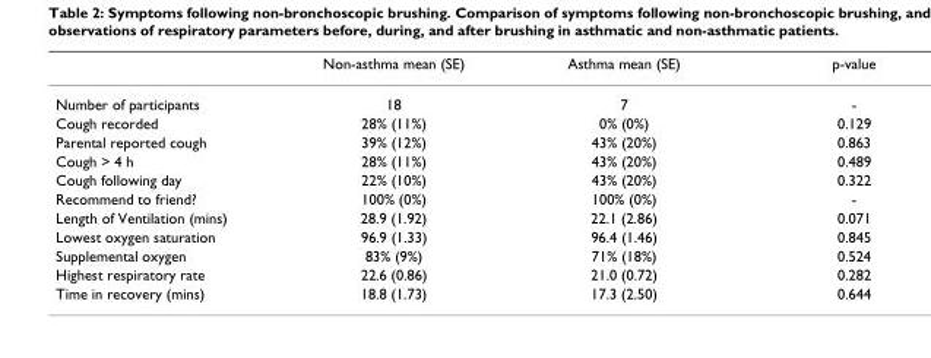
<table><thead><tr><td></td><td>Non-asthma mean (SE)</td><td>Asthma mean (SE)</td><td>p-value</td></tr></thead><tbody><tr><td>Number of participants</td><td>18</td><td>7</td><td>-</td></tr><tr><td>Cough recorded</td><td>28% (11%)</td><td>0% (0%)</td><td>0.129</td></tr><tr><td>Parental reported cough</td><td>39% (12%)</td><td>43% (20%)</td><td>0.863</td></tr><tr><td>Cough &gt; 4 h</td><td>28% (11%)</td><td>43% (20%)</td><td>0.489</td></tr><tr><td>Cough following day</td><td>22% (10%)</td><td>43% (20%)</td><td>0.322</td></tr><tr><td>Recommend to friend?</td><td>100% (0%)</td><td>100% (0%)</td><td>-</td></tr><tr><td>Length of Ventilation (mins)</td><td>28.9 (1.92)</td><td>22.1 (2.86)</td><td>0.071</td></tr><tr><td>Lowest oxygen saturation</td><td>96.9 (1.33)</td><td>96.4 (1.46)</td><td>0.845</td></tr><tr><td>Supplemental oxygen</td><td>83% (9%)</td><td>71% (18%)</td><td>0.524</td></tr><tr><td>Highest respiratory rate</td><td>22.6 (0.86)</td><td>21.0 (0.72)</td><td>0.282</td></tr><tr><td>Time in recovery (mins)</td><td>18.8 (1.73)</td><td>17.3 (2.50)</td><td>0.644</td></tr></tbody></table>